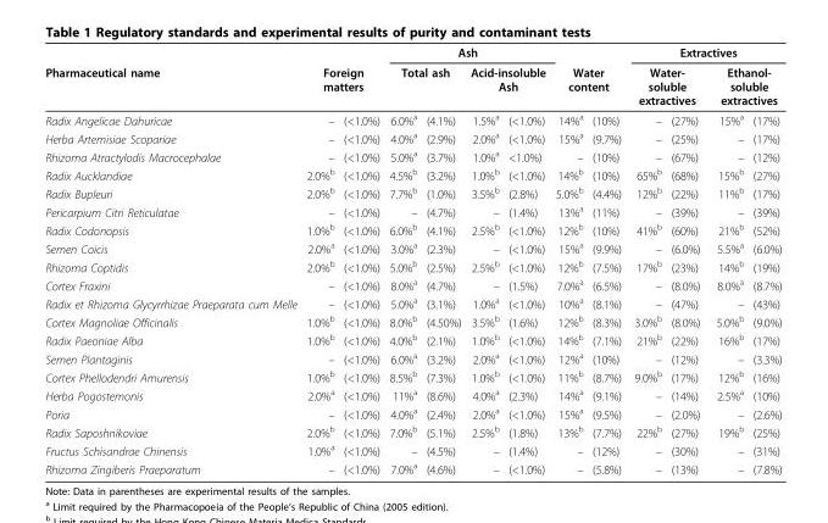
<table><thead><tr><td rowspan="3">Pharmaceutical name Radix Angelicae Dahuricae</td><td></td><td></td><td colspan="4">Ash</td><td></td><td></td><td colspan="4">Extractives</td></tr><tr><td colspan="2">Foreign matters</td><td colspan="2">Total ash</td><td colspan="2">Acid-insoluble Ash</td><td colspan="2">Water content</td><td colspan="2">Water- soluble extractives</td><td colspan="2">Ethanol- soluble extractives</td></tr><tr><td>–</td><td>(&lt;1.0%)</td><td>6.0%<sup>a</sup></td><td>(4.1%)</td><td>1.5%<sup>a</sup></td><td>(&lt;1.0%)</td><td>14%<sup>a</sup></td><td>(10%)</td><td>–</td><td>(27%)</td><td>15%<sup>a</sup></td><td>(17%)</td></tr></thead><tbody><tr><td>Herba Artemisiae Scopariae</td><td>–</td><td>(&lt;1.0%)</td><td>4.0%<sup>a</sup></td><td>(2.9%)</td><td>2.0%<sup>a</sup></td><td>(&lt;1.0%)</td><td>15%<sup>a</sup></td><td>(9.7%)</td><td>–</td><td>(25%)</td><td>–</td><td>(17%)</td></tr><tr><td>Rhizoma Atractylodis Macrocephalae</td><td>–</td><td>(&lt;1.0%)</td><td>5.0%<sup>a</sup></td><td>(3.7%)</td><td>1.0%<sup>a</sup></td><td>&lt;1.0%)</td><td>–</td><td>(10%)</td><td>–</td><td>(67%)</td><td>–</td><td>(12%)</td></tr><tr><td>Radix Aucklandiae</td><td>2.0%<sup>b</sup></td><td>(&lt;1.0%)</td><td>4.5%<sup>b</sup></td><td>(3.2%)</td><td>1.0%<sup>b</sup></td><td>(&lt;1.0%)</td><td>14%<sup>b</sup></td><td>(10%)</td><td>65%<sup>b</sup></td><td>(68%)</td><td>15%<sup>b</sup></td><td>(27%)</td></tr><tr><td>Radix Bupleuri</td><td>2.0%<sup>b</sup></td><td>(&lt;1.0%)</td><td>7.7%<sup>b</sup></td><td>(1.0%)</td><td>3.5%<sup>b</sup></td><td>(2.8%)</td><td>5.0%<sup>b</sup></td><td>(4.4%)</td><td>12%<sup>b</sup></td><td>(22%)</td><td>11%<sup>b</sup></td><td>(17%)</td></tr><tr><td>Pericarpium Citri Reticulatae</td><td>–</td><td>(&lt;1.0%)</td><td>–</td><td>(4.7%)</td><td>–</td><td>(1.4%)</td><td>13%<sup>a</sup></td><td>(11%)</td><td>–</td><td>(39%)</td><td>–</td><td>(39%)</td></tr><tr><td>Radix Codonopsis</td><td>1.0%<sup>b</sup></td><td>(&lt;1.0%)</td><td>6.0%<sup>b</sup></td><td>(4.1%)</td><td>2.5%<sup>b</sup></td><td>(&lt;1.0%)</td><td>12%<sup>b</sup></td><td>(10%)</td><td>41%<sup>b</sup></td><td>(60%)</td><td>21%<sup>b</sup></td><td>(52%)</td></tr><tr><td>Semen Coicis</td><td>2.0%<sup>a</sup></td><td>(&lt;1.0%)</td><td>3.0%<sup>a</sup></td><td>(2.3%)</td><td>–</td><td>(&lt;1.0%)</td><td>15%<sup>a</sup></td><td>(9.9%)</td><td>–</td><td>(6.0%)</td><td>5.5%<sup>a</sup></td><td>(6.0%)</td></tr><tr><td>Rhizoma Coptidis</td><td>2.0%<sup>b</sup></td><td>(&lt;1.0%)</td><td>5.0%<sup>b</sup></td><td>(2.5%)</td><td>2.5%<sup>b</sup></td><td>(&lt;1.0%)</td><td>12%<sup>b</sup></td><td>(7.5%)</td><td>17%<sup>b</sup></td><td>(23%)</td><td>14%<sup>b</sup></td><td>(19%)</td></tr><tr><td>Cortex Fraxini</td><td>–</td><td>(&lt;1.0%)</td><td>8.0%<sup>a</sup></td><td>(4.7%)</td><td>–</td><td>(1.5%)</td><td>7.0%<sup>a</sup></td><td>(6.5%)</td><td>–</td><td>(8.0%)</td><td>8.0%<sup>a</sup></td><td>(8.7%)</td></tr><tr><td>Radix et Rhizoma Glycyrrhizae Praeparata cum Melle</td><td>–</td><td>(&lt;1.0%)</td><td>5.0%<sup>a</sup></td><td>(3.1%)</td><td>1.0%<sup>a</sup></td><td>(&lt;1.0%)</td><td>10%<sup>a</sup></td><td>(8.1%)</td><td>–</td><td>(47%)</td><td>–</td><td>(43%)</td></tr><tr><td>Cortex Magnoliae Officinalis</td><td>1.0%<sup>b</sup></td><td>(&lt;1.0%)</td><td>8.0%<sup>b</sup></td><td>(4.50%)</td><td>3.5%<sup>b</sup></td><td>(1.6%)</td><td>12%<sup>b</sup></td><td>(8.3%)</td><td>3.0%<sup>b</sup></td><td>(8.0%)</td><td>5.0%<sup>b</sup></td><td>(9.0%)</td></tr><tr><td>Radix Paeoniae Alba</td><td>1.0%<sup>b</sup></td><td>(&lt;1.0%)</td><td>4.0%<sup>b</sup></td><td>(2.1%)</td><td>1.0%<sup>b</sup></td><td>(&lt;1.0%)</td><td>14%<sup>b</sup></td><td>(7.1%)</td><td>21%<sup>b</sup></td><td>(22%)</td><td>16%<sup>b</sup></td><td>(17%)</td></tr><tr><td>Semen Plantaginis</td><td>–</td><td>(&lt;1.0%)</td><td>6.0%<sup>a</sup></td><td>(3.2%)</td><td>2.0%<sup>a</sup></td><td>(&lt;1.0%)</td><td>12%<sup>a</sup></td><td>(10%)</td><td>–</td><td>(12%)</td><td>–</td><td>(3.3%)</td></tr><tr><td>Cortex Phellodendri Amurensis</td><td>1.0%<sup>b</sup></td><td>(&lt;1.0%)</td><td>8.5%<sup>b</sup></td><td>(7.3%)</td><td>1.0%<sup>b</sup></td><td>(&lt;1.0%)</td><td>11%<sup>b</sup></td><td>(8.7%)</td><td>9.0%<sup>b</sup></td><td>(17%)</td><td>12%<sup>b</sup></td><td>(16%)</td></tr><tr><td>Herba Pogostemonis</td><td>2.0%<sup>a</sup></td><td>(&lt;1.0%)</td><td>11%<sup>a</sup></td><td>(8.6%)</td><td>4.0%<sup>a</sup></td><td>(2.3%)</td><td>14%<sup>a</sup></td><td>(9.1%)</td><td>–</td><td>(14%)</td><td>2.5%<sup>a</sup></td><td>(10%)</td></tr><tr><td>Poria</td><td>–</td><td>(&lt;1.0%)</td><td>4.0%<sup>a</sup></td><td>(2.4%)</td><td>2.0%<sup>a</sup></td><td>(&lt;1.0%)</td><td>15%<sup>a</sup></td><td>(9.5%)</td><td>–</td><td>(2.0%)</td><td>–</td><td>(2.6%)</td></tr><tr><td>Radix Saposhnikoviae</td><td>2.0%<sup>b</sup></td><td>(&lt;1.0%)</td><td>7.0%<sup>b</sup></td><td>(5.1%)</td><td>2.5%<sup>b</sup></td><td>(1.8%)</td><td>13%<sup>b</sup></td><td>(7.7%)</td><td>22%<sup>b</sup></td><td>(27%)</td><td>19%<sup>b</sup></td><td>(25%)</td></tr><tr><td>Fructus Schisandrae Chinensis</td><td>1.0%<sup>a</sup></td><td>(&lt;1.0%)</td><td>–</td><td>(4.5%)</td><td>–</td><td>(1.4%)</td><td>–</td><td>(12%)</td><td>–</td><td>(30%)</td><td>–</td><td>(31%)</td></tr><tr><td>Rhizoma Zingiberis Praeparatum</td><td>–</td><td>(&lt;1.0%)</td><td>7.0%<sup>a</sup></td><td>(4.6%)</td><td>–</td><td>(&lt;1.0%)</td><td>–</td><td>(5.8%)</td><td>–</td><td>(13%)</td><td>–</td><td>(7.8%)</td></tr></tbody></table>